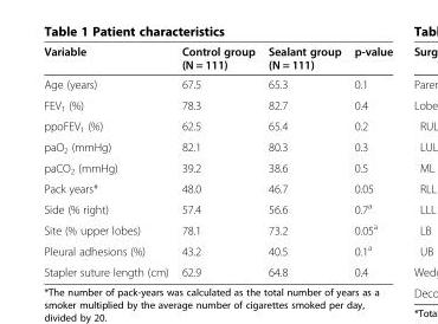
<table><thead><tr><td>Variable</td><td>Control group (N = 111)</td><td>Sealant group (N = 111)</td><td>p-value</td></tr></thead><tbody><tr><td>Age (years)</td><td>67.5</td><td>65.3</td><td>0.1</td></tr><tr><td>FEV<sub>1</sub> (%)</td><td>78.3</td><td>82.7</td><td>0.4</td></tr><tr><td>ppoFEV<sub>1</sub> (%)</td><td>62.5</td><td>65.4</td><td>0.2</td></tr><tr><td>paO<sub>2</sub> (mmHg)</td><td>82.1</td><td>80.3</td><td>0.3</td></tr><tr><td>paCO<sub>2</sub> (mmHg)</td><td>39.2</td><td>38.6</td><td>0.5</td></tr><tr><td>Pack years*</td><td>48.0</td><td>46.7</td><td>0.05</td></tr><tr><td>Side (% right)</td><td>57.4</td><td>56.6</td><td>0.7<sup>a</sup></td></tr><tr><td>Site (% upper lobes)</td><td>78.1</td><td>73.2</td><td>0.05<sup>a</sup></td></tr><tr><td>Pleural adhesions (%)</td><td>43.2</td><td>40.5</td><td>0.1<sup>a</sup></td></tr><tr><td>Stapler suture length (cm)</td><td>62.9</td><td>64.8</td><td>0.4</td></tr></tbody></table>